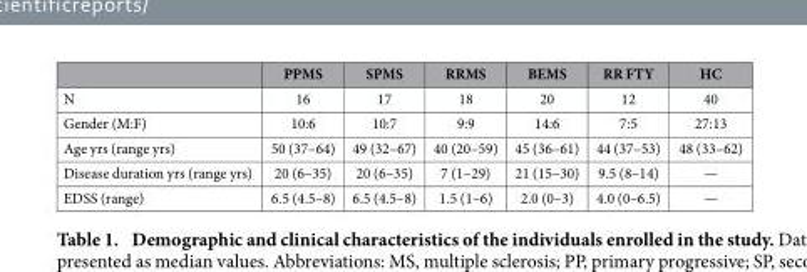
<table><thead><tr><td></td><td>PPMS</td><td>SPMS</td><td>RRMS</td><td>BEMS</td><td>RR FTY</td><td>HC</td></tr></thead><tbody><tr><td>N</td><td>16</td><td>17</td><td>18</td><td>20</td><td>12</td><td>40</td></tr><tr><td>Gender (M:F)</td><td>10:6</td><td>10:7</td><td>9:9</td><td>14:6</td><td>7:5</td><td>27:13</td></tr><tr><td>Age yrs (range yrs)</td><td>50 (37–64)</td><td>49 (32–67)</td><td>40 (20–59)</td><td>45 (36–61)</td><td>44 (37–53)</td><td>48 (33–62)</td></tr><tr><td>Disease duration yrs (range yrs)</td><td>20 (6–35)</td><td>20 (6–35)</td><td>7 (1–29)</td><td>21 (15–30)</td><td>9.5 (8–14)</td><td>—</td></tr><tr><td>EDSS (range)</td><td>6.5 (4.5–8)</td><td>6.5 (4.5–8)</td><td>1.5 (1–6)</td><td>2.0 (0–3)</td><td>4.0 (0–6.5)</td><td>—</td></tr></tbody></table>